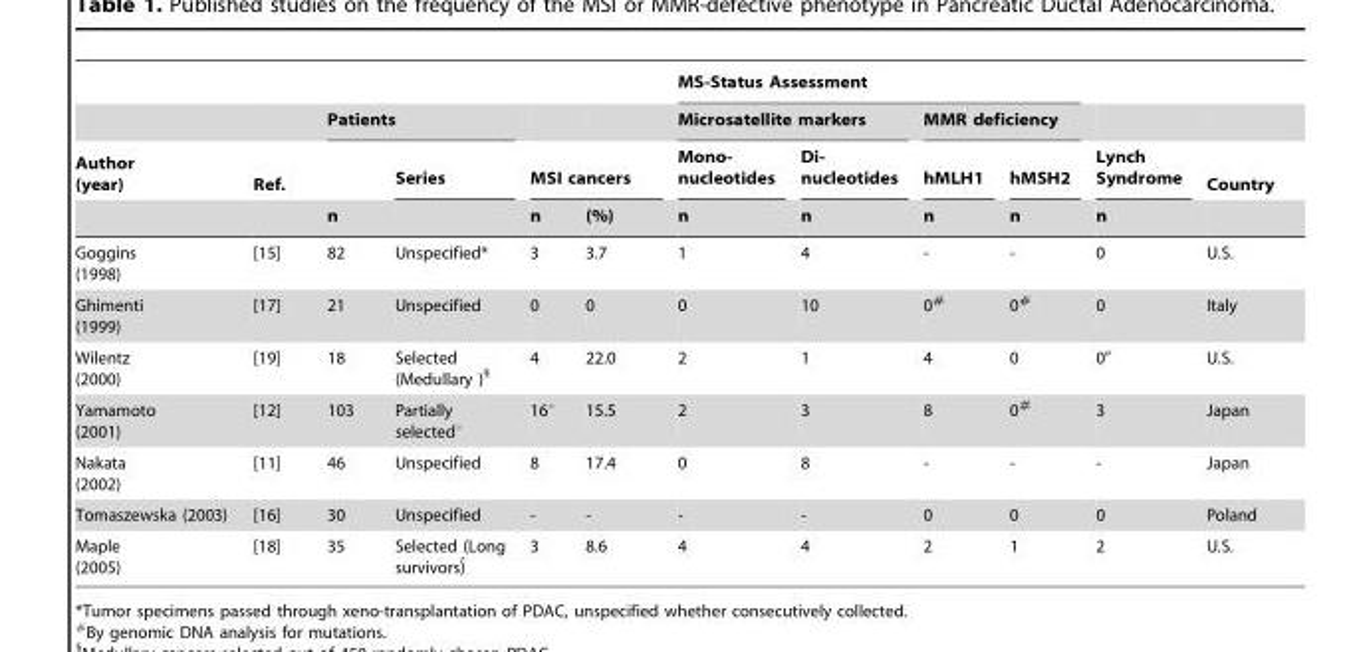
<table><thead><tr><td rowspan="4">Author (year)</td><td rowspan="4">Ref.</td><td></td><td></td><td rowspan="2"></td><td rowspan="2"></td><td colspan="4">MS-Status Assessment</td><td rowspan="4">Lynch Syndrome n</td><td rowspan="4">Country</td></tr><tr><td colspan="2">Patients</td><td colspan="2">Microsatellite markers</td><td colspan="2">MMR deficiency</td></tr><tr><td rowspan="2">n</td><td rowspan="2">Series</td><td colspan="2">MSI cancers</td><td rowspan="2">Mono- nucleotides n</td><td rowspan="2">Di- nucleotides n</td><td rowspan="2">hMLH1 n</td><td rowspan="2">hMSH2 n</td></tr><tr><td>n</td><td>(%)</td></tr></thead><tbody><tr><td>Goggins (1998)</td><td>[15]</td><td>82</td><td>Unspecified*</td><td>3</td><td>3.7</td><td>1</td><td>4</td><td>-</td><td>-</td><td>0</td><td>U.S.</td></tr><tr><td>Ghimenti (1999)</td><td>[17]</td><td>21</td><td>Unspecified</td><td>0</td><td>0</td><td>0</td><td>10</td><td>0#</td><td>0#</td><td>0</td><td>Italy</td></tr><tr><td>Wilentz (2000)</td><td>[19]</td><td>18</td><td>Selected (Medullary )§</td><td>4</td><td>22.0</td><td>2</td><td>1</td><td>4</td><td>0</td><td>0″</td><td>U.S.</td></tr><tr><td>Yamamoto (2001)</td><td>[12]</td><td>103</td><td>Partially selected°</td><td>16°</td><td>15.5</td><td>2</td><td>3</td><td>8</td><td>0#</td><td>3</td><td>Japan</td></tr><tr><td>Nakata (2002)</td><td>[11]</td><td>46</td><td>Unspecified</td><td>8</td><td>17.4</td><td>0</td><td>8</td><td>-</td><td>-</td><td>-</td><td>Japan</td></tr><tr><td>Tomaszewska (2003)</td><td>[16]</td><td>30</td><td>Unspecified</td><td>-</td><td>-</td><td>-</td><td>-</td><td>0</td><td>0</td><td>0</td><td>Poland</td></tr><tr><td>Maple (2005)</td><td>[18]</td><td>35</td><td>Selected (Long survivors)ˆ</td><td>3</td><td>8.6</td><td>4</td><td>4</td><td>2</td><td>1</td><td>2</td><td>U.S.</td></tr></tbody></table>